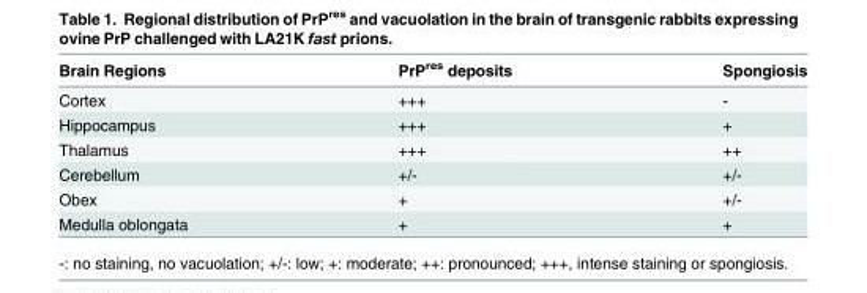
<table><thead><tr><td>Brain Regions</td><td>PrP<sup>res</sup> deposits</td><td>Spongiosis</td></tr></thead><tbody><tr><td>Cortex</td><td>+++</td><td>-</td></tr><tr><td>Hippocampus</td><td>+++</td><td>+</td></tr><tr><td>Thalamus</td><td>+++</td><td>++</td></tr><tr><td>Cerebellum</td><td>+/-</td><td>+/-</td></tr><tr><td>Obex</td><td>+</td><td>+/-</td></tr><tr><td>Medulla oblongata</td><td>+</td><td>+</td></tr></tbody></table>